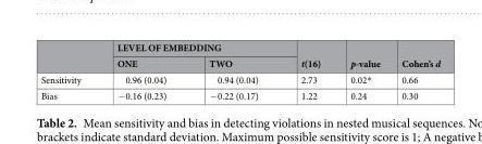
<table><thead><tr><td rowspan="2"></td><td colspan="2">LEVEL OF EMBEDDING</td><td rowspan="2">t(16)</td><td rowspan="2">p-value</td><td rowspan="2">Cohen’s d</td></tr><tr><td>ONE</td><td>TWO</td></tr></thead><tbody><tr><td>Sensitivity</td><td>0.96 (0.04)</td><td>0.94 (0.04)</td><td>2.73</td><td>0.02*</td><td>0.66</td></tr><tr><td>Bias</td><td>−0.16 (0.23)</td><td>−0.22 (0.17)</td><td>1.22</td><td>0.24</td><td>0.30</td></tr></tbody></table>